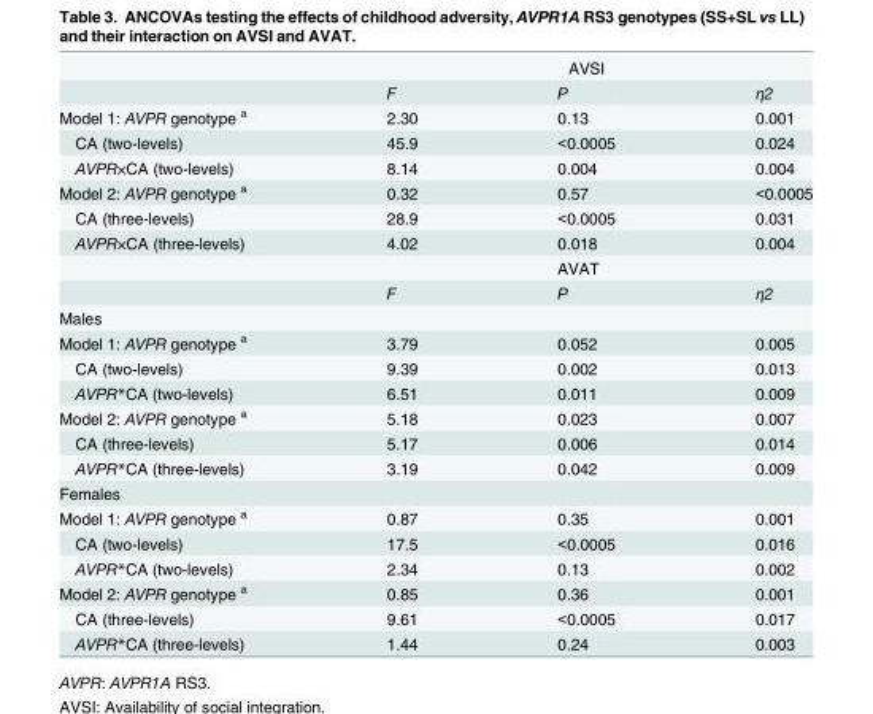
<table><thead><tr><td></td><td></td><td>AVSI</td><td></td></tr></thead><tbody><tr><td></td><td>F</td><td>P</td><td>η2</td></tr><tr><td>Model 1: AVPR genotype <sup>a</sup></td><td>2.30</td><td>0.13</td><td>0.001</td></tr><tr><td>CA (two-levels)</td><td>45.9</td><td>&lt;0.0005</td><td>0.024</td></tr><tr><td>AVPR×CA (two-levels)</td><td>8.14</td><td>0.004</td><td>0.004</td></tr><tr><td>Model 2: AVPR genotype <sup>a</sup></td><td>0.32</td><td>0.57</td><td>&lt;0.0005</td></tr><tr><td>CA (three-levels)</td><td>28.9</td><td>&lt;0.0005</td><td>0.031</td></tr><tr><td rowspan="3">AVPR×CA (three-levels)</td><td>4.02</td><td>0.018</td><td>0.004</td></tr><tr><td></td><td>AVAT</td><td></td></tr><tr><td>F</td><td>P</td><td>η2</td></tr><tr><td colspan="4">Males</td></tr><tr><td>Model 1: AVPR genotype <sup>a</sup></td><td>3.79</td><td>0.052</td><td>0.005</td></tr><tr><td>CA (two-levels)</td><td>9.39</td><td>0.002</td><td>0.013</td></tr><tr><td>AVPR*CA (two-levels)</td><td>6.51</td><td>0.011</td><td>0.009</td></tr><tr><td>Model 2: AVPR genotype <sup>a</sup></td><td>5.18</td><td>0.023</td><td>0.007</td></tr><tr><td>CA (three-levels)</td><td>5.17</td><td>0.006</td><td>0.014</td></tr><tr><td>AVPR*CA (three-levels)</td><td>3.19</td><td>0.042</td><td>0.009</td></tr><tr><td colspan="4">Females</td></tr><tr><td>Model 1: AVPR genotype <sup>a</sup></td><td>0.87</td><td>0.35</td><td>0.001</td></tr><tr><td>CA (two-levels)</td><td>17.5</td><td>&lt;0.0005</td><td>0.016</td></tr><tr><td>AVPR*CA (two-levels)</td><td>2.34</td><td>0.13</td><td>0.002</td></tr><tr><td>Model 2: AVPR genotype <sup>a</sup></td><td>0.85</td><td>0.36</td><td>0.001</td></tr><tr><td>CA (three-levels)</td><td>9.61</td><td>&lt;0.0005</td><td>0.017</td></tr><tr><td>AVPR*CA (three-levels)</td><td>1.44</td><td>0.24</td><td>0.003</td></tr></tbody></table>